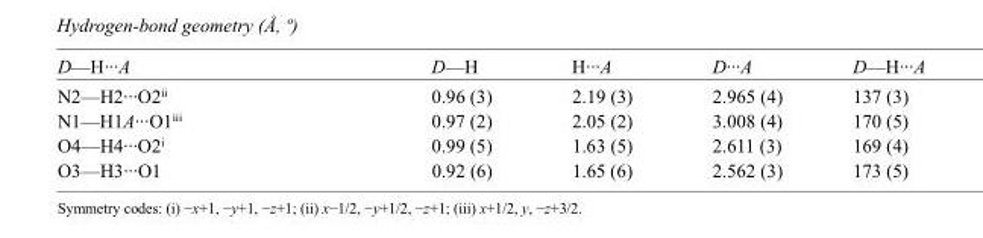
<table><tbody><tr><td>D—H···A</td><td>D—H</td><td>H···A</td><td>D···A</td><td>D—H···A</td></tr><tr><td>N2—H2···O2<sup>ii</sup></td><td>0.96 (3)</td><td>2.19 (3)</td><td>2.965 (4)</td><td>137 (3)</td></tr><tr><td>N1—H1A···O1<sup>iii</sup></td><td>0.97 (2)</td><td>2.05 (2)</td><td>3.008 (4)</td><td>170 (5)</td></tr><tr><td>O4—H4···O2<sup>i</sup></td><td>0.99 (5)</td><td>1.63 (5)</td><td>2.611 (3)</td><td>169 (4)</td></tr><tr><td>O3—H3···O1</td><td>0.92 (6)</td><td>1.65 (6)</td><td>2.562 (3)</td><td>173 (5)</td></tr></tbody></table>